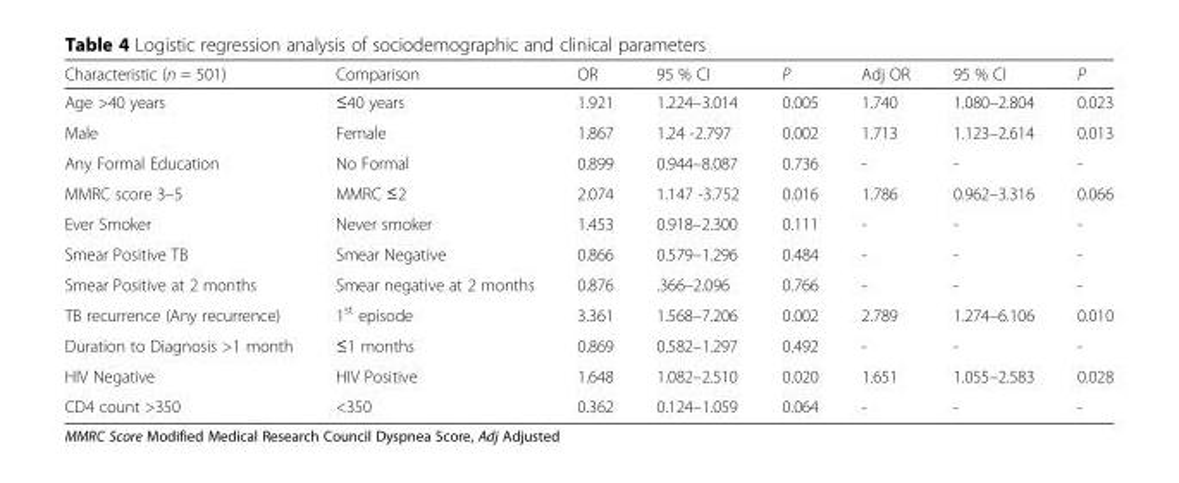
<table><thead><tr><td>Characteristic (n = 501)</td><td>Comparison</td><td>OR</td><td>95 % CI</td><td>P</td><td>Adj OR</td><td>95 % CI</td><td>P</td></tr></thead><tbody><tr><td>Age &gt;40 years</td><td>≤40 years</td><td>1.921</td><td>1.224–3.014</td><td>0.005</td><td>1.740</td><td>1.080–2.804</td><td>0.023</td></tr><tr><td>Male</td><td>Female</td><td>1.867</td><td>1.24 -2.797</td><td>0.002</td><td>1.713</td><td>1.123–2.614</td><td>0.013</td></tr><tr><td>Any Formal Education</td><td>No Formal</td><td>0.899</td><td>0.944–8.087</td><td>0.736</td><td>-</td><td>-</td><td>-</td></tr><tr><td>MMRC score 3–5</td><td>MMRC ≤2</td><td>2.074</td><td>1.147 -3.752</td><td>0.016</td><td>1.786</td><td>0.962–3.316</td><td>0.066</td></tr><tr><td>Ever Smoker</td><td>Never smoker</td><td>1.453</td><td>0.918–2.300</td><td>0.111</td><td>-</td><td>-</td><td>-</td></tr><tr><td>Smear Positive TB</td><td>Smear Negative</td><td>0.866</td><td>0.579–1.296</td><td>0.484</td><td>-</td><td>-</td><td>-</td></tr><tr><td>Smear Positive at 2 months</td><td>Smear negative at 2 months</td><td>0.876</td><td>.366–2.096</td><td>0.766</td><td>-</td><td>-</td><td>-</td></tr><tr><td>TB recurrence (Any recurrence)</td><td>1<sup>st</sup> episode</td><td>3.361</td><td>1.568–7.206</td><td>0.002</td><td>2.789</td><td>1.274–6.106</td><td>0.010</td></tr><tr><td>Duration to Diagnosis &gt;1 month</td><td>≤1 months</td><td>0.869</td><td>0.582–1.297</td><td>0.492</td><td>-</td><td>-</td><td>-</td></tr><tr><td>HIV Negative</td><td>HIV Positive</td><td>1.648</td><td>1.082–2.510</td><td>0.020</td><td>1.651</td><td>1.055–2.583</td><td>0.028</td></tr><tr><td>CD4 count &gt;350</td><td>&lt;350</td><td>0.362</td><td>0.124–1.059</td><td>0.064</td><td>-</td><td>-</td><td>-</td></tr></tbody></table>